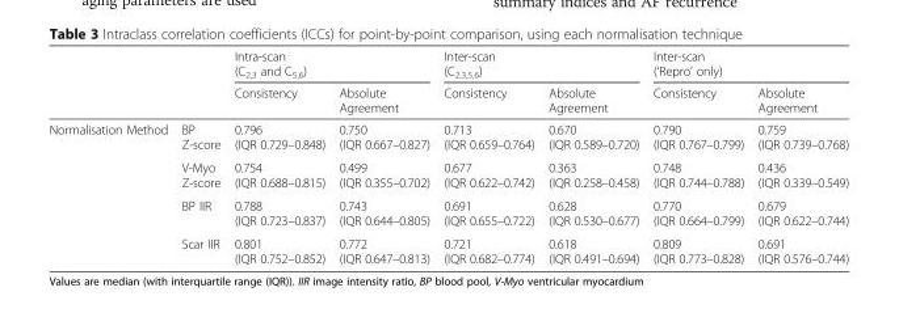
<table><thead><tr><td rowspan="2"></td><td rowspan="2"></td><td colspan="2">Intra-scan (C<sub>2,3</sub> and C<sub>5,6</sub>)</td><td colspan="2">Inter-scan (C<sub>2,3,5,6</sub>)</td><td colspan="2">Inter-scan (‘Repro’ only)</td></tr><tr><td>Consistency</td><td>Absolute Agreement</td><td>Consistency</td><td>Absolute Agreement</td><td>Consistency</td><td>Absolute Agreement</td></tr></thead><tbody><tr><td rowspan="4">Normalisation Method</td><td>BP Z-score</td><td>0.796 (IQR 0.729–0.848)</td><td>0.750 (IQR 0.667–0.827)</td><td>0.713 (IQR 0.659–0.764)</td><td>0.670 (IQR 0.589–0.720)</td><td>0.790 (IQR 0.767–0.799)</td><td>0.759 (IQR 0.739–0.768)</td></tr><tr><td>V-Myo Z-score</td><td>0.754 (IQR 0.688–0.815)</td><td>0.499 (IQR 0.355–0.702)</td><td>0.677 (IQR 0.622–0.742)</td><td>0.363 (IQR 0.258–0.458)</td><td>0.748 (IQR 0.744–0.788)</td><td>0.436 (IQR 0.339–0.549)</td></tr><tr><td>BP IIR</td><td>0.788 (IQR 0.723–0.837)</td><td>0.743 (IQR 0.644–0.805)</td><td>0.691 (IQR 0.655–0.722)</td><td>0.628 (IQR 0.530–0.677)</td><td>0.770 (IQR 0.664–0.799)</td><td>0.679 (IQR 0.622–0.744)</td></tr><tr><td>Scar IIR</td><td>0.801 (IQR 0.752–0.852)</td><td>0.772 (IQR 0.647–0.813)</td><td>0.721 (IQR 0.682–0.774)</td><td>0.618 (IQR 0.491–0.694)</td><td>0.809 (IQR 0.773–0.828)</td><td>0.691 (IQR 0.576–0.744)</td></tr></tbody></table>